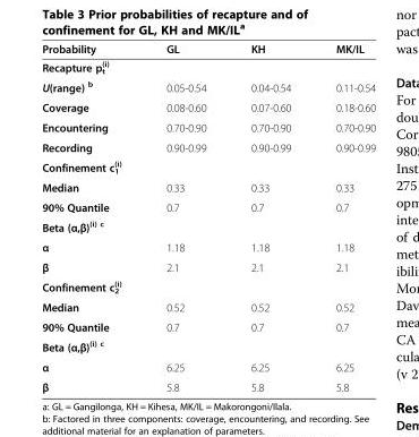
<table><thead><tr><td>Probability</td><td>GL</td><td>KH</td><td>MK/IL</td></tr></thead><tbody><tr><td colspan="4">Recapture p<sub>t</sub> <sup>(i)</sup></td></tr><tr><td>U(range) <sup>b</sup></td><td>0.05-0.54</td><td>0.04-0.54</td><td>0.11-0.54</td></tr><tr><td>Coverage</td><td>0.08-0.60</td><td>0.07-0.60</td><td>0.18-0.60</td></tr><tr><td>Encountering</td><td>0.70-0.90</td><td>0.70-0.90</td><td>0.70-0.90</td></tr><tr><td>Recording</td><td>0.90-0.99</td><td>0.90-0.99</td><td>0.90-0.99</td></tr><tr><td colspan="4">Confinement c<sub>1</sub> <sup>(i)</sup></td></tr><tr><td>Median</td><td>0.33</td><td>0.33</td><td>0.33</td></tr><tr><td>90% Quantile</td><td>0.7</td><td>0.7</td><td>0.7</td></tr><tr><td colspan="4">Beta (α,β)<sup>(i) c</sup></td></tr><tr><td>α</td><td>1.18</td><td>1.18</td><td>1.18</td></tr><tr><td>β</td><td>2.1</td><td>2.1</td><td>2.1</td></tr><tr><td colspan="4">Confinement c<sub>2</sub> <sup>(i)</sup></td></tr><tr><td>Median</td><td>0.52</td><td>0.52</td><td>0.52</td></tr><tr><td>90% Quantile</td><td>0.7</td><td>0.7</td><td>0.7</td></tr><tr><td colspan="4">Beta (α,β)<sup>(i) c</sup></td></tr><tr><td>α</td><td>6.25</td><td>6.25</td><td>6.25</td></tr><tr><td>β</td><td>5.8</td><td>5.8</td><td>5.8</td></tr></tbody></table>